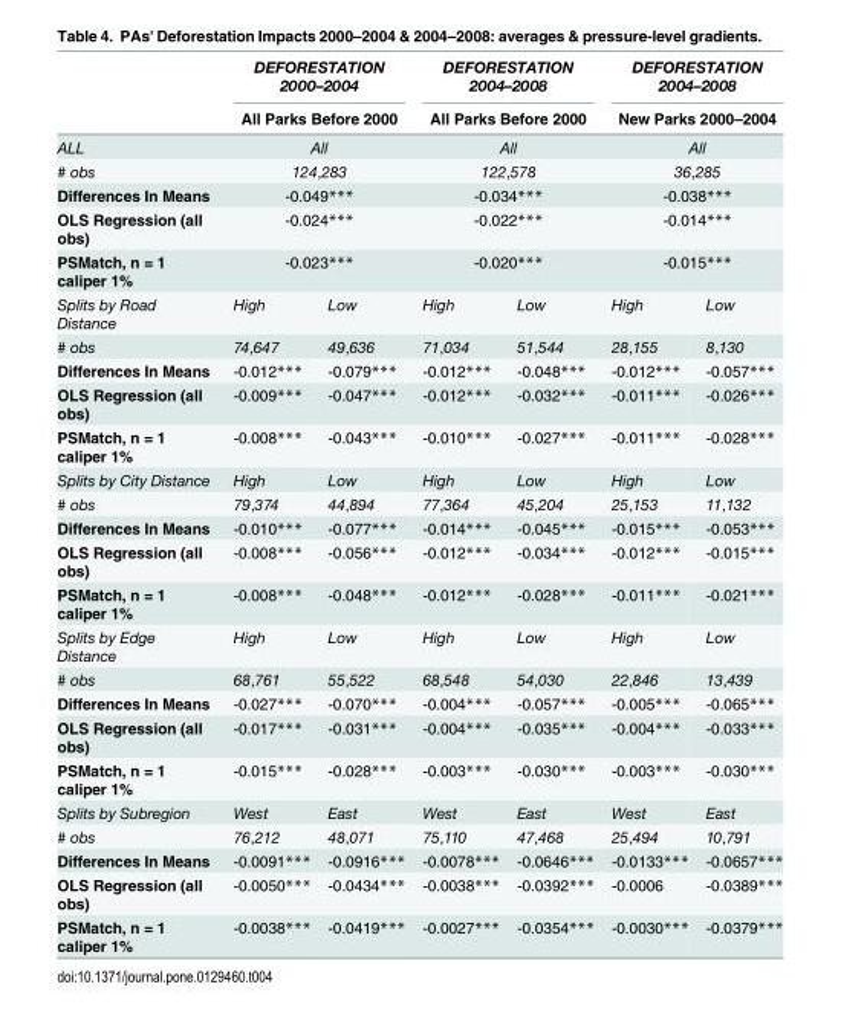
<table><thead><tr><td rowspan="2"></td><td rowspan="2" colspan="2">DEFORESTATION 2000–2004 All Parks Before 2000</td><td rowspan="2" colspan="2">DEFORESTATION 2004–2008 All Parks Before 2000</td><td rowspan="2" colspan="2">DEFORESTATION 2004–2008 New Parks 2000–2004</td></tr><tr></tr></thead><tbody><tr><td>ALL</td><td colspan="2">All</td><td colspan="2">All</td><td colspan="2">All</td></tr><tr><td># obs</td><td colspan="2">124,283</td><td colspan="2">122,578</td><td colspan="2">36,285</td></tr><tr><td>Differences In Means</td><td colspan="2">-0.049***</td><td colspan="2">-0.034***</td><td colspan="2">-0.038***</td></tr><tr><td>OLS Regression (all obs)</td><td colspan="2">-0.024***</td><td colspan="2">-0.022***</td><td colspan="2">-0.014***</td></tr><tr><td>PSMatch, n = 1 caliper 1%</td><td colspan="2">-0.023***</td><td colspan="2">-0.020***</td><td colspan="2">-0.015***</td></tr><tr><td>Splits by Road Distance</td><td>High</td><td>Low</td><td>High</td><td>Low</td><td>High</td><td>Low</td></tr><tr><td># obs</td><td>74,647</td><td>49,636</td><td>71,034</td><td>51,544</td><td>28,155</td><td>8,130</td></tr><tr><td>Differences In Means</td><td>-0.012***</td><td>-0.079***</td><td>-0.012***</td><td>-0.048***</td><td>-0.012***</td><td>-0.057***</td></tr><tr><td>OLS Regression (all obs)</td><td>-0.009***</td><td>-0.047***</td><td>-0.012***</td><td>-0.032***</td><td>-0.011***</td><td>-0.026***</td></tr><tr><td>PSMatch, n = 1 caliper 1%</td><td>-0.008***</td><td>-0.043***</td><td>-0.010***</td><td>-0.027***</td><td>-0.011***</td><td>-0.028***</td></tr><tr><td>Splits by City Distance</td><td>High</td><td>Low</td><td>High</td><td>Low</td><td>High</td><td>Low</td></tr><tr><td># obs</td><td>79,374</td><td>44,894</td><td>77,364</td><td>45,204</td><td>25,153</td><td>11,132</td></tr><tr><td>Differences In Means</td><td>-0.010***</td><td>-0.077***</td><td>-0.014***</td><td>-0.045***</td><td>-0.015***</td><td>-0.053***</td></tr><tr><td>OLS Regression (all obs)</td><td>-0.008***</td><td>-0.056***</td><td>-0.012***</td><td>-0.034***</td><td>-0.012***</td><td>-0.015***</td></tr><tr><td>PSMatch, n = 1 caliper 1%</td><td>-0.008***</td><td>-0.048***</td><td>-0.012***</td><td>-0.028***</td><td>-0.011***</td><td>-0.021***</td></tr><tr><td>Splits by Edge Distance</td><td>High</td><td>Low</td><td>High</td><td>Low</td><td>High</td><td>Low</td></tr><tr><td># obs</td><td>68,761</td><td>55,522</td><td>68,548</td><td>54,030</td><td>22,846</td><td>13,439</td></tr><tr><td>Differences In Means</td><td>-0.027***</td><td>-0.070***</td><td>-0.004***</td><td>-0.057***</td><td>-0.005***</td><td>-0.065***</td></tr><tr><td>OLS Regression (all obs)</td><td>-0.017***</td><td>-0.031***</td><td>-0.004***</td><td>-0.035***</td><td>-0.004***</td><td>-0.033***</td></tr><tr><td>PSMatch, n = 1 caliper 1%</td><td>-0.015***</td><td>-0.028***</td><td>-0.003***</td><td>-0.030***</td><td>-0.003***</td><td>-0.030***</td></tr><tr><td>Splits by Subregion</td><td>West</td><td>East</td><td>West</td><td>East</td><td>West</td><td>East</td></tr><tr><td># obs</td><td>76,212</td><td>48,071</td><td>75,110</td><td>47,468</td><td>25,494</td><td>10,791</td></tr><tr><td>Differences In Means</td><td>-0.0091***</td><td>-0.0916***</td><td>-0.0078***</td><td>-0.0646***</td><td>-0.0133***</td><td>-0.0657***</td></tr><tr><td>OLS Regression (all obs)</td><td>-0.0050***</td><td>-0.0434***</td><td>-0.0038***</td><td>-0.0392***</td><td>-0.0006</td><td>-0.0389***</td></tr><tr><td>PSMatch, n = 1 caliper 1%</td><td>-0.0038***</td><td>-0.0419***</td><td>-0.0027***</td><td>-0.0354***</td><td>-0.0030***</td><td>-0.0379***</td></tr></tbody></table>